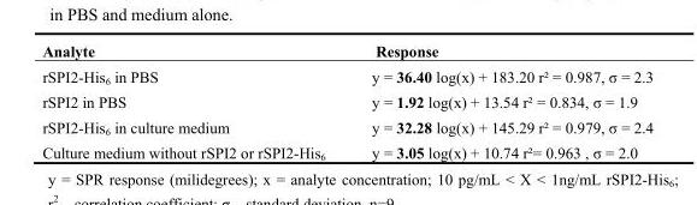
<table><thead><tr><td>Analyte</td><td>Response</td></tr></thead><tbody><tr><td>rSPI2-His<sub>6</sub> in PBS</td><td>y = 36.40 log(x) + 183.20 r² = 0.987, σ = 2.3</td></tr><tr><td>rSPI2 in PBS</td><td>y = 1.92 log(x) + 13.54 r² = 0.834, σ = 1.9</td></tr><tr><td>rSPI2-His<sub>6</sub> in culture medium</td><td>y = 32.28 log(x) + 145.29 r² = 0.979, σ = 2.4</td></tr><tr><td>Culture medium without rSPI2 or rSPI2-His<sub>6</sub></td><td>y = 3.05 log(x) + 10.74 r²= 0.963 , σ = 2.0</td></tr></tbody></table>